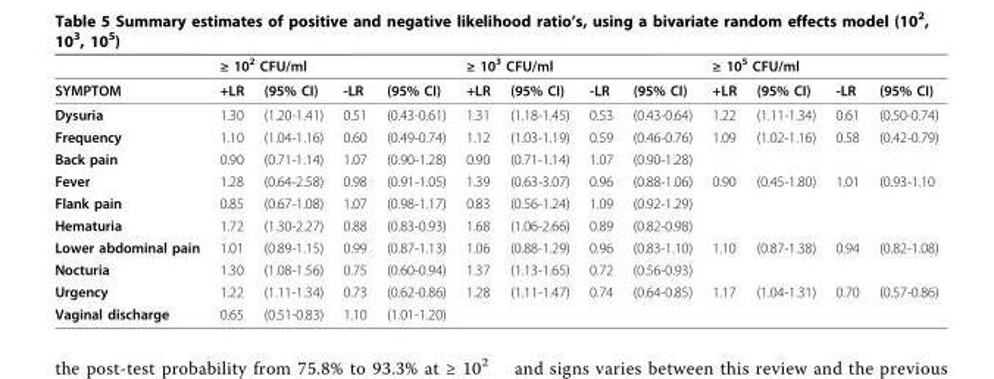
<table><thead><tr><td rowspan="2">SYMPTOM</td><td colspan="4">≥ 10<sup>2</sup> CFU/ml</td><td colspan="4">≥ 10<sup>3</sup> CFU/ml</td><td colspan="4">≥ 10<sup>5</sup> CFU/ml</td></tr><tr><td>+LR</td><td>(95% CI)</td><td>-LR</td><td>(95% CI)</td><td>+LR</td><td>(95% CI)</td><td>-LR</td><td>(95% CI)</td><td>+LR</td><td>(95% CI)</td><td>-LR</td><td>(95% CI)</td></tr></thead><tbody><tr><td>Dysuria</td><td>1.30</td><td>(1.20-1.41)</td><td>0.51</td><td>(0.43-0.61)</td><td>1.31</td><td>(1.18-1.45)</td><td>0.53</td><td>(0.43-0.64)</td><td>1.22</td><td>(1.11-1.34)</td><td>0.61</td><td>(0.50-0.74)</td></tr><tr><td>Frequency</td><td>1.10</td><td>(1.04-1.16)</td><td>0.60</td><td>(0.49-0.74)</td><td>1.12</td><td>(1.03-1.19)</td><td>0.59</td><td>(0.46-0.76)</td><td>1.09</td><td>(1.02-1.16)</td><td>0.58</td><td>(0.42-0.79)</td></tr><tr><td>Back pain</td><td>0.90</td><td>(0.71-1.14)</td><td>1.07</td><td>(0.90-1.28)</td><td>0.90</td><td>(0.71-1.14)</td><td>1.07</td><td>(0.90-1.28)</td><td></td><td></td><td></td><td></td></tr><tr><td>Fever</td><td>1.28</td><td>(0.64-2.58)</td><td>0.98</td><td>(0.91-1.05)</td><td>1.39</td><td>(0.63-3.07)</td><td>0.96</td><td>(0.88-1.06)</td><td>0.90</td><td>(0.45-1.80)</td><td>1.01</td><td>(0.93-1.10</td></tr><tr><td>Flank pain</td><td>0.85</td><td>(0.67-1.08)</td><td>1.07</td><td>(0.98-1.17)</td><td>0.83</td><td>(0.56-1.24)</td><td>1.09</td><td>(0.92-1.29)</td><td></td><td></td><td></td><td></td></tr><tr><td>Hematuria</td><td>1.72</td><td>(1.30-2.27)</td><td>0.88</td><td>(0.83-0.93)</td><td>1.68</td><td>(1.06-2.66)</td><td>0.89</td><td>(0.82-0.98)</td><td></td><td></td><td></td><td></td></tr><tr><td>Lower abdominal pain</td><td>1.01</td><td>(0.89-1.15)</td><td>0.99</td><td>(0.87-1.13)</td><td>1.06</td><td>(0.88-1.29)</td><td>0.96</td><td>(0.83-1.10)</td><td>1.10</td><td>(0.87-1.38)</td><td>0.94</td><td>(0.82-1.08)</td></tr><tr><td>Nocturia</td><td>1.30</td><td>(1.08-1.56)</td><td>0.75</td><td>(0.60-0.94)</td><td>1.37</td><td>(1.13-1.65)</td><td>0.72</td><td>(0.56-0.93)</td><td></td><td></td><td></td><td></td></tr><tr><td>Urgency</td><td>1.22</td><td>(1.11-1.34)</td><td>0.73</td><td>(0.62-0.86)</td><td>1.28</td><td>(1.11-1.47)</td><td>0.74</td><td>(0.64-0.85)</td><td>1.17</td><td>(1.04-1.31)</td><td>0.70</td><td>(0.57-0.86)</td></tr><tr><td>Vaginal discharge</td><td>0.65</td><td>(0.51-0.83)</td><td>1.10</td><td>(1.01-1.20)</td><td></td><td></td><td></td><td></td><td></td><td></td><td></td><td></td></tr></tbody></table>